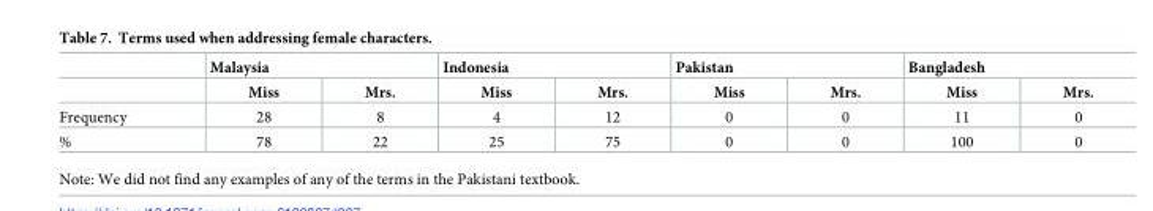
<table><thead><tr><td rowspan="2"></td><td colspan="2">Malaysia</td><td colspan="2">Indonesia</td><td colspan="2">Pakistan</td><td colspan="2">Bangladesh</td></tr><tr><td>Miss</td><td>Mrs.</td><td>Miss</td><td>Mrs.</td><td>Miss</td><td>Mrs.</td><td>Miss</td><td>Mrs.</td></tr></thead><tbody><tr><td>Frequency</td><td>28</td><td>8</td><td>4</td><td>12</td><td>0</td><td>0</td><td>11</td><td>0</td></tr><tr><td>%</td><td>78</td><td>22</td><td>25</td><td>75</td><td>0</td><td>0</td><td>100</td><td>0</td></tr></tbody></table>